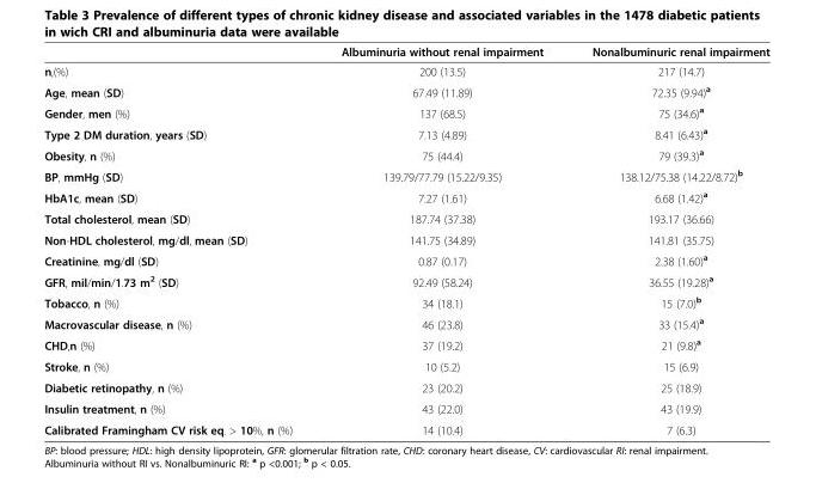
<table><thead><tr><td></td><td>Albuminuria without renal impairment</td><td>Nonalbuminuric renal impairment</td></tr></thead><tbody><tr><td>n,(%)</td><td>200 (13.5)</td><td>217 (14.7)</td></tr><tr><td>Age, mean (SD)</td><td>67.49 (11.89)</td><td>72.35 (9.94)<sup>a</sup></td></tr><tr><td>Gender, men (%)</td><td>137 (68.5)</td><td>75 (34.6)<sup>a</sup></td></tr><tr><td>Type 2 DM duration, years (SD)</td><td>7.13 (4.89)</td><td>8.41 (6.43)<sup>a</sup></td></tr><tr><td>Obesity, n (%)</td><td>75 (44.4)</td><td>79 (39.3)<sup>a</sup></td></tr><tr><td>BP, mmHg (SD)</td><td>139.79/77.79 (15.22/9.35)</td><td>138.12/75.38 (14.22/8.72)<sup>b</sup></td></tr><tr><td>HbA1c, mean (SD)</td><td>7.27 (1.61)</td><td>6.68 (1.42)<sup>a</sup></td></tr><tr><td>Total cholesterol, mean (SD)</td><td>187.74 (37.38)</td><td>193.17 (36.66)</td></tr><tr><td>Non-HDL cholesterol, mg/dl, mean (SD)</td><td>141.75 (34.89)</td><td>141.81 (35.75)</td></tr><tr><td>Creatinine, mg/dl (SD)</td><td>0.87 (0.17)</td><td>2.38 (1.60)<sup>a</sup></td></tr><tr><td>GFR, mil/min/1.73 m<sup>2</sup> (SD)</td><td>92.49 (58.24)</td><td>36.55 (19.28)<sup>a</sup></td></tr><tr><td>Tobacco, n (%)</td><td>34 (18.1)</td><td>15 (7.0)<sup>b</sup></td></tr><tr><td>Macrovascular disease, n (%)</td><td>46 (23.8)</td><td>33 (15.4)<sup>a</sup></td></tr><tr><td>CHD,n (%)</td><td>37 (19.2)</td><td>21 (9.8)<sup>a</sup></td></tr><tr><td>Stroke, n (%)</td><td>10 (5.2)</td><td>15 (6.9)</td></tr><tr><td>Diabetic retinopathy, n (%)</td><td>23 (20.2)</td><td>25 (18.9)</td></tr><tr><td>Insulin treatment, n (%)</td><td>43 (22.0)</td><td>43 (19.9)</td></tr><tr><td>Calibrated Framingham CV risk eq. &gt; 10%, n (%)</td><td>14 (10.4)</td><td>7 (6.3)</td></tr></tbody></table>